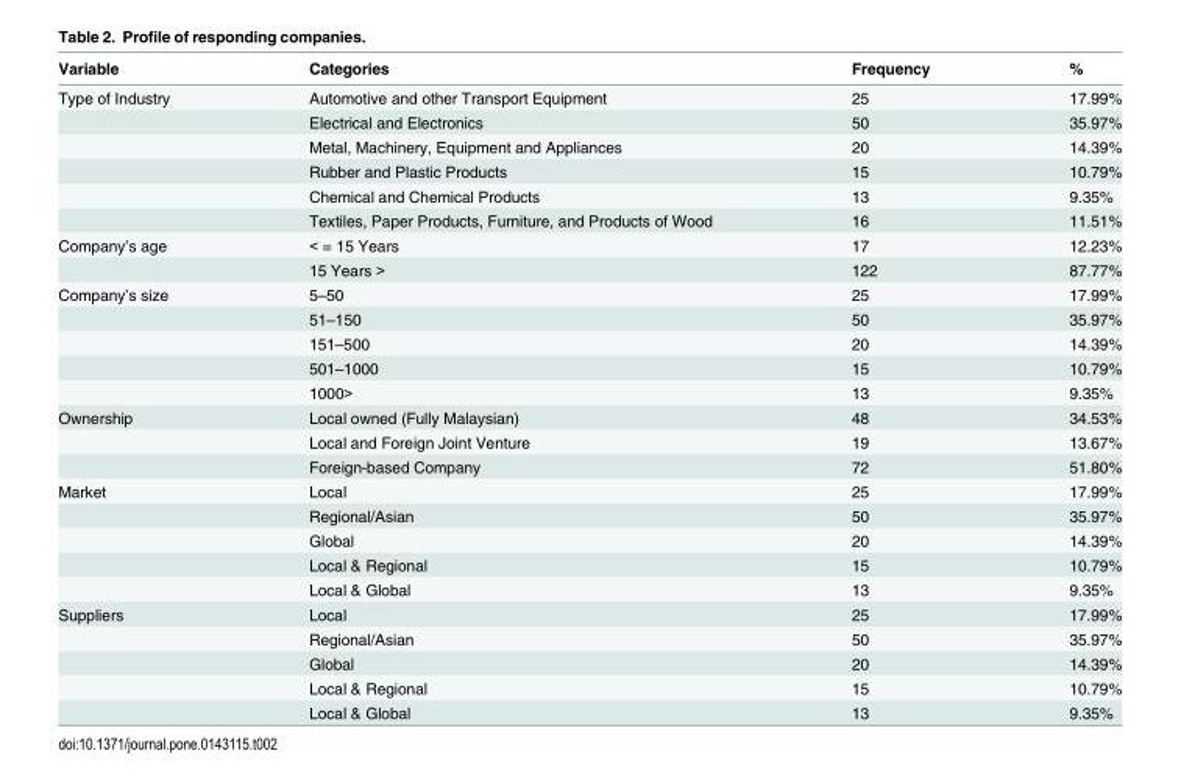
<table><thead><tr><td>Variable</td><td>Categories</td><td>Frequency</td><td>%</td></tr></thead><tbody><tr><td rowspan="6">Type of Industry</td><td>Automotive and other Transport Equipment</td><td>25</td><td>17.99%</td></tr><tr><td>Electrical and Electronics</td><td>50</td><td>35.97%</td></tr><tr><td>Metal, Machinery, Equipment and Appliances</td><td>20</td><td>14.39%</td></tr><tr><td>Rubber and Plastic Products</td><td>15</td><td>10.79%</td></tr><tr><td>Chemical and Chemical Products</td><td>13</td><td>9.35%</td></tr><tr><td>Textiles, Paper Products, Furniture, and Products of Wood</td><td>16</td><td>11.51%</td></tr><tr><td rowspan="2">Company’s age</td><td>&lt; = 15 Years</td><td>17</td><td>12.23%</td></tr><tr><td>15 Years &gt;</td><td>122</td><td>87.77%</td></tr><tr><td rowspan="5">Company’s size</td><td>5–50</td><td>25</td><td>17.99%</td></tr><tr><td>51–150</td><td>50</td><td>35.97%</td></tr><tr><td>151–500</td><td>20</td><td>14.39%</td></tr><tr><td>501–1000</td><td>15</td><td>10.79%</td></tr><tr><td>1000&gt;</td><td>13</td><td>9.35%</td></tr><tr><td rowspan="3">Ownership</td><td>Local owned (Fully Malaysian)</td><td>48</td><td>34.53%</td></tr><tr><td>Local and Foreign Joint Venture</td><td>19</td><td>13.67%</td></tr><tr><td>Foreign-based Company</td><td>72</td><td>51.80%</td></tr><tr><td rowspan="5">Market</td><td>Local</td><td>25</td><td>17.99%</td></tr><tr><td>Regional/Asian</td><td>50</td><td>35.97%</td></tr><tr><td>Global</td><td>20</td><td>14.39%</td></tr><tr><td>Local &amp; Regional</td><td>15</td><td>10.79%</td></tr><tr><td>Local &amp; Global</td><td>13</td><td>9.35%</td></tr><tr><td rowspan="5">Suppliers</td><td>Local</td><td>25</td><td>17.99%</td></tr><tr><td>Regional/Asian</td><td>50</td><td>35.97%</td></tr><tr><td>Global</td><td>20</td><td>14.39%</td></tr><tr><td>Local &amp; Regional</td><td>15</td><td>10.79%</td></tr><tr><td>Local &amp; Global</td><td>13</td><td>9.35%</td></tr></tbody></table>